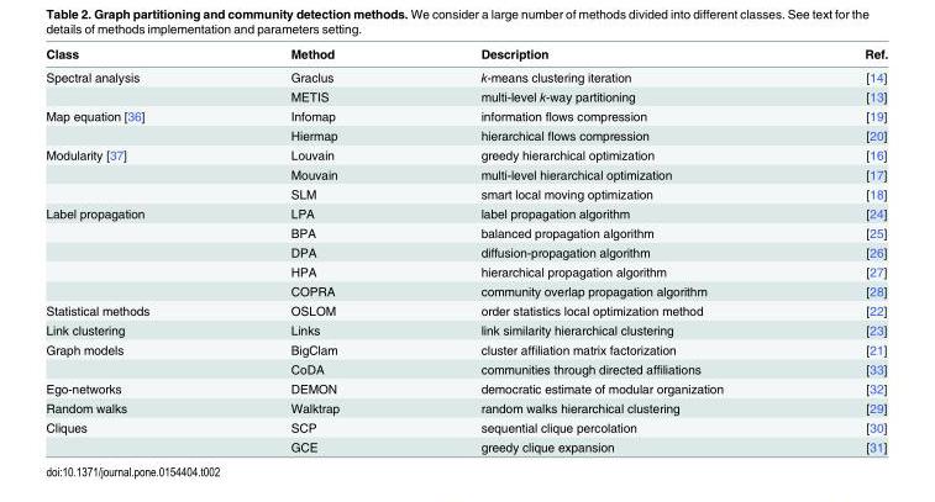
<table><thead><tr><td>Class</td><td>Method</td><td>Description</td><td>Ref.</td></tr></thead><tbody><tr><td rowspan="2">Spectral analysis</td><td>Graclus</td><td>k-means clustering iteration</td><td>[14]</td></tr><tr><td>METIS</td><td>multi-level k-way partitioning</td><td>[13]</td></tr><tr><td rowspan="2">Map equation [36]</td><td>Infomap</td><td>information flows compression</td><td>[19]</td></tr><tr><td>Hiermap</td><td>hierarchical flows compression</td><td>[20]</td></tr><tr><td rowspan="3">Modularity [37]</td><td>Louvain</td><td>greedy hierarchical optimization</td><td>[16]</td></tr><tr><td>Mouvain</td><td>multi-level hierarchical optimization</td><td>[17]</td></tr><tr><td>SLM</td><td>smart local moving optimization</td><td>[18]</td></tr><tr><td rowspan="5">Label propagation</td><td>LPA</td><td>label propagation algorithm</td><td>[24]</td></tr><tr><td>BPA</td><td>balanced propagation algorithm</td><td>[25]</td></tr><tr><td>DPA</td><td>diffusion-propagation algorithm</td><td>[26]</td></tr><tr><td>HPA</td><td>hierarchical propagation algorithm</td><td>[27]</td></tr><tr><td>COPRA</td><td>community overlap propagation algorithm</td><td>[28]</td></tr><tr><td>Statistical methods</td><td>OSLOM</td><td>order statistics local optimization method</td><td>[22]</td></tr><tr><td>Link clustering</td><td>Links</td><td>link similarity hierarchical clustering</td><td>[23]</td></tr><tr><td rowspan="2">Graph models</td><td>BigClam</td><td>cluster affiliation matrix factorization</td><td>[21]</td></tr><tr><td>CoDA</td><td>communities through directed affiliations</td><td>[33]</td></tr><tr><td>Ego-networks</td><td>DEMON</td><td>democratic estimate of modular organization</td><td>[32]</td></tr><tr><td>Random walks</td><td>Walktrap</td><td>random walks hierarchical clustering</td><td>[29]</td></tr><tr><td rowspan="2">Cliques</td><td>SCP</td><td>sequential clique percolation</td><td>[30]</td></tr><tr><td>GCE</td><td>greedy clique expansion</td><td>[31]</td></tr></tbody></table>